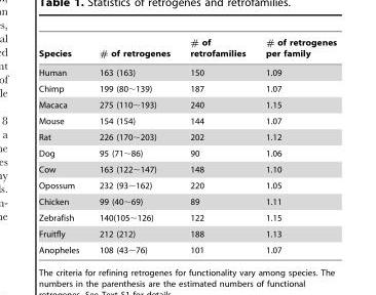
<table><thead><tr><td>Species</td><td># of retrogenes</td><td># of retrofamilies</td><td># of retrogenes per family</td></tr></thead><tbody><tr><td>Human</td><td>163 (163)</td><td>150</td><td>1.09</td></tr><tr><td>Chimp</td><td>199 (80∼139)</td><td>187</td><td>1.07</td></tr><tr><td>Macaca</td><td>275 (110∼193)</td><td>240</td><td>1.15</td></tr><tr><td>Mouse</td><td>154 (154)</td><td>144</td><td>1.07</td></tr><tr><td>Rat</td><td>226 (170∼203)</td><td>202</td><td>1.12</td></tr><tr><td>Dog</td><td>95 (71∼86)</td><td>90</td><td>1.06</td></tr><tr><td>Cow</td><td>163 (122∼147)</td><td>148</td><td>1.10</td></tr><tr><td>Opossum</td><td>232 (93∼162)</td><td>220</td><td>1.05</td></tr><tr><td>Chicken</td><td>99 (40∼69)</td><td>89</td><td>1.11</td></tr><tr><td>Zebrafish</td><td>140(105∼126)</td><td>122</td><td>1.15</td></tr><tr><td>Fruitfly</td><td>212 (212)</td><td>188</td><td>1.13</td></tr><tr><td>Anopheles</td><td>108 (43∼76)</td><td>101</td><td>1.07</td></tr></tbody></table>